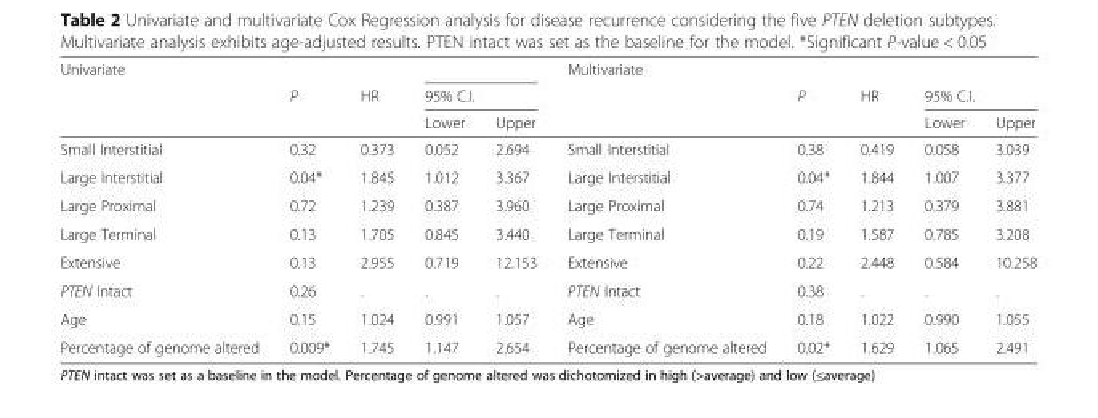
<table><thead><tr><td rowspan="3">Univariate</td><td rowspan="3">P</td><td rowspan="3">HR</td><td></td><td></td><td rowspan="3">Multivariate</td><td rowspan="3">P</td><td rowspan="3">HR</td><td></td><td></td></tr><tr><td colspan="2">95% C.I.</td><td colspan="2">95% C.I.</td></tr><tr><td>Lower</td><td>Upper</td><td>Lower</td><td>Upper</td></tr></thead><tbody><tr><td>Small Interstitial</td><td>0.32</td><td>0.373</td><td>0.052</td><td>2.694</td><td>Small Interstitial</td><td>0.38</td><td>0.419</td><td>0.058</td><td>3.039</td></tr><tr><td>Large Interstitial</td><td>0.04*</td><td>1.845</td><td>1.012</td><td>3.367</td><td>Large Interstitial</td><td>0.04*</td><td>1.844</td><td>1.007</td><td>3.377</td></tr><tr><td>Large Proximal</td><td>0.72</td><td>1.239</td><td>0.387</td><td>3.960</td><td>Large Proximal</td><td>0.74</td><td>1.213</td><td>0.379</td><td>3.881</td></tr><tr><td>Large Terminal</td><td>0.13</td><td>1.705</td><td>0.845</td><td>3.440</td><td>Large Terminal</td><td>0.19</td><td>1.587</td><td>0.785</td><td>3.208</td></tr><tr><td>Extensive</td><td>0.13</td><td>2.955</td><td>0.719</td><td>12.153</td><td>Extensive</td><td>0.22</td><td>2.448</td><td>0.584</td><td>10.258</td></tr><tr><td>PTEN Intact</td><td>0.26</td><td>.</td><td>.</td><td>.</td><td>PTEN Intact</td><td>0.38</td><td>.</td><td>.</td><td>.</td></tr><tr><td>Age</td><td>0.15</td><td>1.024</td><td>0.991</td><td>1.057</td><td>Age</td><td>0.18</td><td>1.022</td><td>0.990</td><td>1.055</td></tr><tr><td>Percentage of genome altered</td><td>0.009*</td><td>1.745</td><td>1.147</td><td>2.654</td><td>Percentage of genome altered</td><td>0.02*</td><td>1.629</td><td>1.065</td><td>2.491</td></tr></tbody></table>